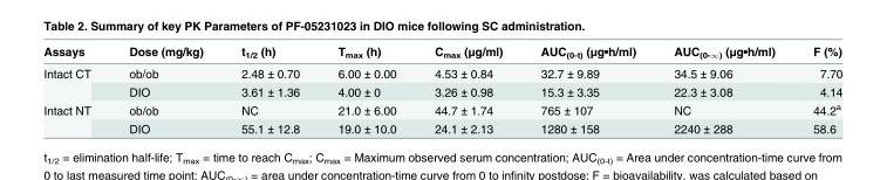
<table><thead><tr><td>Assays</td><td>Dose (mg/kg)</td><td>t<sub>1/2</sub> (h)</td><td>T<sub>max</sub> (h)</td><td>C<sub>max</sub> (μg/ml)</td><td>AUC<sub>(0-t)</sub> (μg•h/ml)</td><td>AUC<sub>(0-∞)</sub> (μg•h/ml)</td><td>F (%)</td></tr></thead><tbody><tr><td rowspan="2">Intact CT</td><td>ob/ob</td><td>2.48 ± 0.70</td><td>6.00 ± 0.00</td><td>4.53 ± 0.84</td><td>32.7 ± 9.89</td><td>34.5 ± 9.06</td><td>7.70</td></tr><tr><td>DIO</td><td>3.61 ± 1.36</td><td>4.00 ± 0</td><td>3.26 ± 0.98</td><td>15.3 ± 3.35</td><td>22.3 ± 3.08</td><td>4.14</td></tr><tr><td rowspan="2">Intact NT</td><td>ob/ob</td><td>NC</td><td>21.0 ± 6.00</td><td>44.7 ± 1.74</td><td>765 ± 107</td><td>NC</td><td>44.2<sup>a</sup></td></tr><tr><td>DIO</td><td>55.1 ± 12.8</td><td>19.0 ± 10.0</td><td>24.1 ± 2.13</td><td>1280 ± 158</td><td>2240 ± 288</td><td>58.6</td></tr></tbody></table>